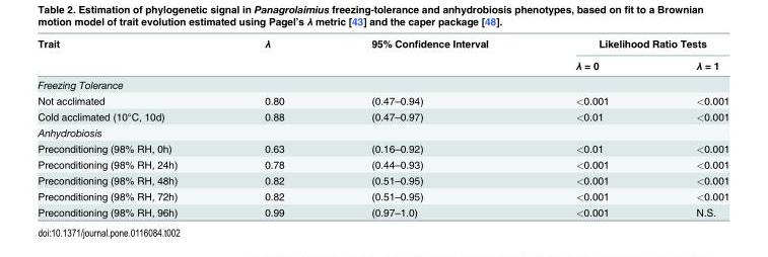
<table><thead><tr><td rowspan="2">Trait</td><td rowspan="2">λ</td><td rowspan="2">95% Confidence Interval</td><td colspan="2">Likelihood Ratio Tests</td></tr><tr><td>λ = 0</td><td>λ = 1</td></tr></thead><tbody><tr><td colspan="5">Freezing Tolerance</td></tr><tr><td>Not acclimated</td><td>0.80</td><td>(0.47–0.94)</td><td>&lt;0.001</td><td>&lt;0.001</td></tr><tr><td>Cold acclimated (10°C, 10d)</td><td>0.88</td><td>(0.47–0.97)</td><td>&lt;0.01</td><td>&lt;0.001</td></tr><tr><td colspan="5">Anhydrobiosis</td></tr><tr><td>Preconditioning (98% RH, 0h)</td><td>0.63</td><td>(0.16–0.92)</td><td>&lt;0.01</td><td>&lt;0.001</td></tr><tr><td>Preconditioning (98% RH, 24h)</td><td>0.78</td><td>(0.44–0.93)</td><td>&lt;0.001</td><td>&lt;0.001</td></tr><tr><td>Preconditioning (98% RH, 48h)</td><td>0.82</td><td>(0.51–0.95)</td><td>&lt;0.001</td><td>&lt;0.001</td></tr><tr><td>Preconditioning (98% RH, 72h)</td><td>0.82</td><td>(0.51–0.95)</td><td>&lt;0.001</td><td>&lt;0.001</td></tr><tr><td>Preconditioning (98% RH, 96h)</td><td>0.99</td><td>(0.97–1.0)</td><td>&lt;0.001</td><td>N.S.</td></tr></tbody></table>